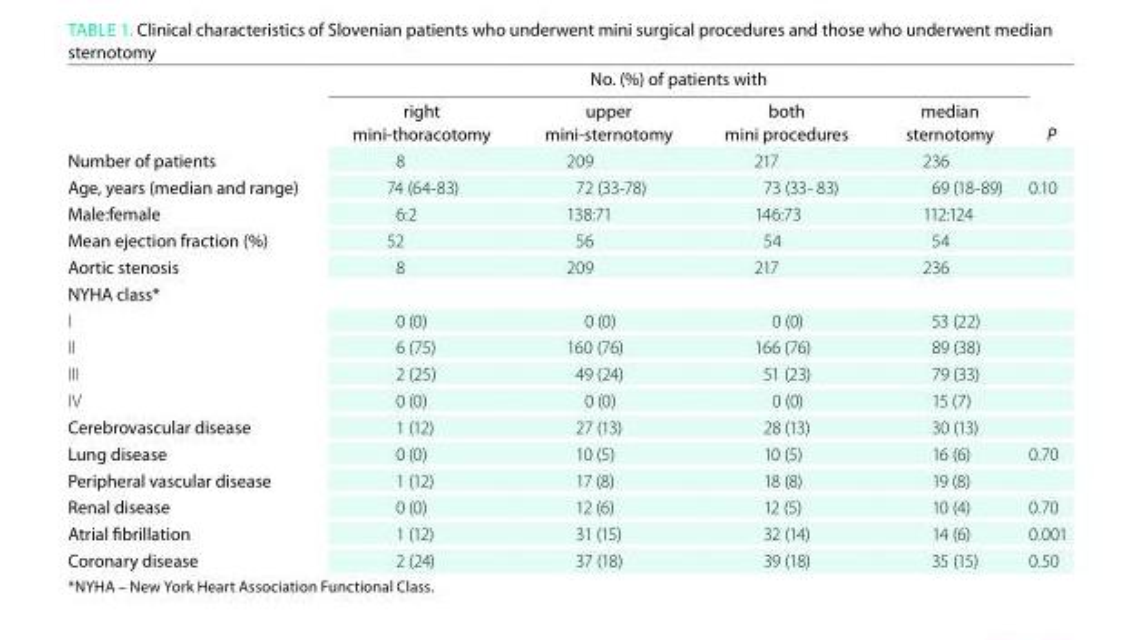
<table><thead><tr><td rowspan="2"></td><td colspan="4">no. (%) of patients with</td><td rowspan="2">P</td></tr><tr><td>right mini-thoracotomy</td><td>upper mini-sternotomy</td><td>both mini procedures</td><td>median sternotomy</td></tr></thead><tbody><tr><td>number of patients</td><td>8</td><td>209</td><td>217</td><td>236</td><td></td></tr><tr><td>age, years (median and range)</td><td>74 (64-83)</td><td>72 (33-78)</td><td>73 (33- 83)</td><td>69 (18-89)</td><td>0.10</td></tr><tr><td>Male:female</td><td>6:2</td><td>138:71</td><td>146:73</td><td>112:124</td><td></td></tr><tr><td>Mean ejection fraction (%)</td><td>52</td><td>56</td><td>54</td><td>54</td><td></td></tr><tr><td>aortic stenosis</td><td>8</td><td>209</td><td>217</td><td>236</td><td></td></tr><tr><td colspan="6">nYha class*</td></tr><tr><td>I</td><td>0 (0)</td><td>0 (0)</td><td>0 (0)</td><td>53 (22)</td><td></td></tr><tr><td>II</td><td>6 (75)</td><td>160 (76)</td><td>166 (76)</td><td>89 (38)</td><td></td></tr><tr><td>III</td><td>2 (25)</td><td>49 (24)</td><td>51 (23)</td><td>79 (33)</td><td></td></tr><tr><td>IV</td><td>0 (0)</td><td>0 (0)</td><td>0 (0)</td><td>15 (7)</td><td></td></tr><tr><td>Cerebrovascular disease</td><td>1 (12)</td><td>27 (13)</td><td>28 (13)</td><td>30 (13)</td><td></td></tr><tr><td>Lung disease</td><td>0 (0)</td><td>10 (5)</td><td>10 (5)</td><td>16 (6)</td><td>0.70</td></tr><tr><td>Peripheral vascular disease</td><td>1 (12)</td><td>17 (8)</td><td>18 (8)</td><td>19 (8)</td><td></td></tr><tr><td>Renal disease</td><td>0 (0)</td><td>12 (6)</td><td>12 (5)</td><td>10 (4)</td><td>0.70</td></tr><tr><td>atrial fibrillation</td><td>1 (12)</td><td>31 (15)</td><td>32 (14)</td><td>14 (6)</td><td>0.001</td></tr><tr><td>Coronary disease</td><td>2 (24)</td><td>37 (18)</td><td>39 (18)</td><td>35 (15)</td><td>0.50</td></tr></tbody></table>